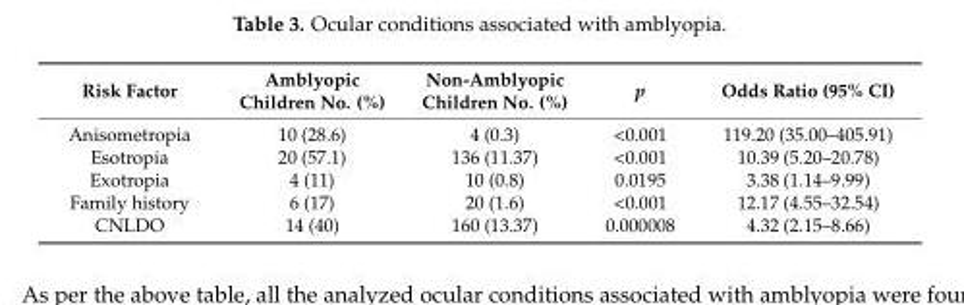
<table><thead><tr><td>Risk Factor</td><td>Amblyopic Children No. (%)</td><td>Non-Amblyopic Children No. (%)</td><td>p</td><td>Odds Ratio (95% CI)</td></tr></thead><tbody><tr><td>Anisometropia</td><td>10 (28.6)</td><td>4 (0.3)</td><td>&lt;0.001</td><td>119.20 (35.00–405.91)</td></tr><tr><td>Esotropia</td><td>20 (57.1)</td><td>136 (11.37)</td><td>&lt;0.001</td><td>10.39 (5.20–20.78)</td></tr><tr><td>Exotropia</td><td>4 (11)</td><td>10 (0.8)</td><td>0.0195</td><td>3.38 (1.14–9.99)</td></tr><tr><td>Family history</td><td>6 (17)</td><td>20 (1.6)</td><td>&lt;0.001</td><td>12.17 (4.55–32.54)</td></tr><tr><td>CNLDO</td><td>14 (40)</td><td>160 (13.37)</td><td>0.000008</td><td>4.32 (2.15–8.66)</td></tr></tbody></table>